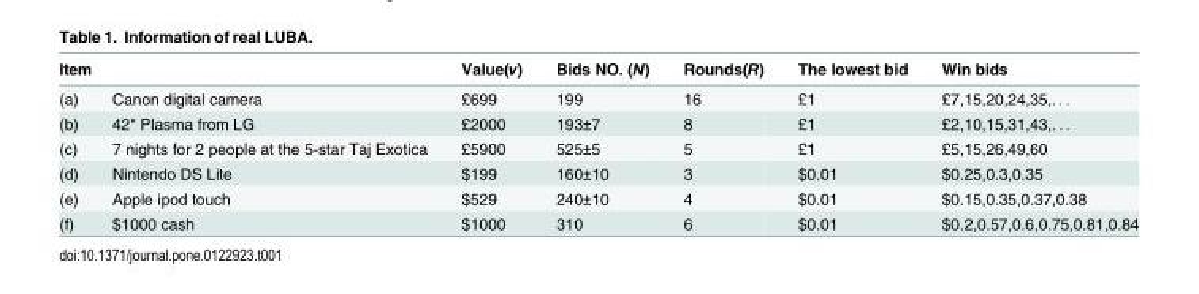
<table><thead><tr><td colspan="2">Item</td><td rowspan="2">Value(v) £699</td><td rowspan="2">Bids NO. (N) 199</td><td rowspan="2">Rounds(R) 16</td><td rowspan="2">The lowest bid £1</td><td rowspan="2">Win bids £7,15,20,24,35,. . .</td></tr><tr><td>(a)</td><td>Canon digital camera</td></tr></thead><tbody><tr><td>(b)</td><td>42&quot; Plasma from LG</td><td>£2000</td><td>193±7</td><td>8</td><td>£1</td><td>£2,10,15,31,43,. . .</td></tr><tr><td>(c)</td><td>7 nights for 2 people at the 5-star Taj Exotica</td><td>£5900</td><td>525±5</td><td>5</td><td>£1</td><td>£5,15,26,49,60</td></tr><tr><td>(d)</td><td>Nintendo DS Lite</td><td>$199</td><td>160±10</td><td>3</td><td>$0.01</td><td>$0.25,0.3,0.35</td></tr><tr><td>(e)</td><td>Apple ipod touch</td><td>$529</td><td>240±10</td><td>4</td><td>$0.01</td><td>$0.15,0.35,0.37,0.38</td></tr><tr><td>(f)</td><td>$1000 cash</td><td>$1000</td><td>310</td><td>6</td><td>$0.01</td><td>$0.2,0.57,0.6,0.75,0.81,0.84</td></tr></tbody></table>